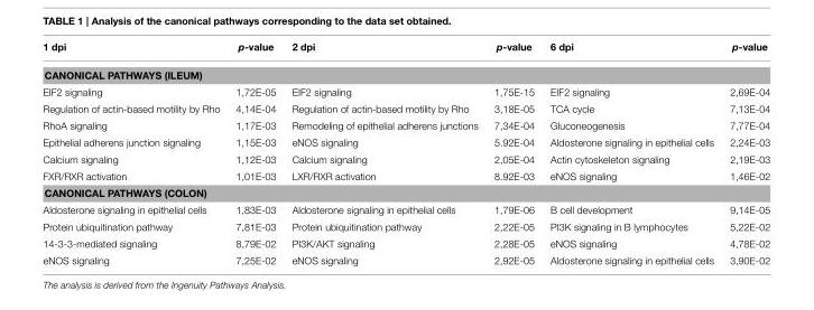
<table><thead><tr><td>1 dpi</td><td>p-value</td><td>2 dpi</td><td>p-value</td><td>6 dpi</td><td>p-value</td></tr></thead><tbody><tr><td colspan="6">CANONICAL PATHWAYS (ILEUM)</td></tr><tr><td>EIF2 signaling</td><td>1,72E-05</td><td>EIF2 signaling</td><td>1,75E-15</td><td>EIF2 signaling</td><td>2,69E-04</td></tr><tr><td>Regulation of actin-based motility by Rho</td><td>4,14E-04</td><td>Regulation of actin-based motility by Rho</td><td>3,18E-05</td><td>TCA cycle</td><td>7,13E-04</td></tr><tr><td>RhoA signaling</td><td>1,17E-03</td><td>Remodeling of epithelial adherens junctions</td><td>7,34E-04</td><td>Gluconeogenesis</td><td>7,77E-04</td></tr><tr><td>Epithelial adherens junction signaling</td><td>1,15E-03</td><td>eNOS signaling</td><td>5.92E-04</td><td>Aldosterone signaling in epithelial cells</td><td>2,24E-03</td></tr><tr><td>Calcium signaling</td><td>1,12E-03</td><td>Calcium signaling</td><td>2,05E-04</td><td>Actin cytoskeleton signaling</td><td>2,19E-03</td></tr><tr><td>FXR/RXR activation</td><td>1,01E-03</td><td>LXR/RXR activation</td><td>8.92E-03</td><td>eNOS signaling</td><td>1,46E-02</td></tr><tr><td colspan="6">CANONICAL PATHWAYS (COLON)</td></tr><tr><td>Aldosterone signaling in epithelial cells</td><td>1,83E-03</td><td>Aldosterone signaling in epithelial cells</td><td>1,79E-06</td><td>B cell development</td><td>9,14E-05</td></tr><tr><td>Protein ubiquitination pathway</td><td>7,81E-03</td><td>Protein ubiquitination pathway</td><td>2,22E-05</td><td>PI3K signaling in B lymphocytes</td><td>5,22E-02</td></tr><tr><td>14-3-3-mediated signaling</td><td>8,79E-02</td><td>PI3K/AKT signaling</td><td>2,28E-05</td><td>eNOS signaling</td><td>4,78E-02</td></tr><tr><td>eNOS signaling</td><td>7,25E-02</td><td>eNOS signaling</td><td>2,92E-05</td><td>Aldosterone signaling in epithelial cells</td><td>3,90E-02</td></tr></tbody></table>